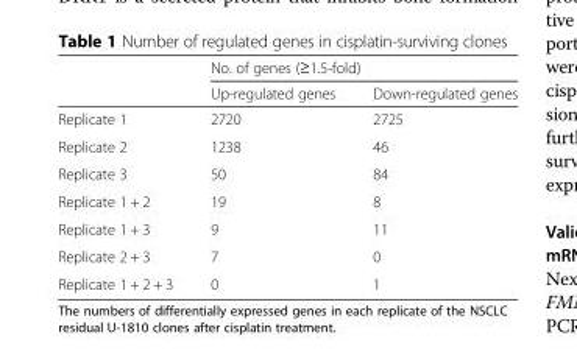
<table><thead><tr><td rowspan="2"></td><td colspan="2">No. of genes (≥1.5-fold)</td></tr><tr><td>Up-regulated genes</td><td>Down-regulated genes</td></tr></thead><tbody><tr><td>Replicate 1</td><td>2720</td><td>2725</td></tr><tr><td>Replicate 2</td><td>1238</td><td>46</td></tr><tr><td>Replicate 3</td><td>50</td><td>84</td></tr><tr><td>Replicate 1 + 2</td><td>19</td><td>8</td></tr><tr><td>Replicate 1 + 3</td><td>9</td><td>11</td></tr><tr><td>Replicate 2 + 3</td><td>7</td><td>0</td></tr><tr><td>Replicate 1 + 2 + 3</td><td>0</td><td>1</td></tr></tbody></table>